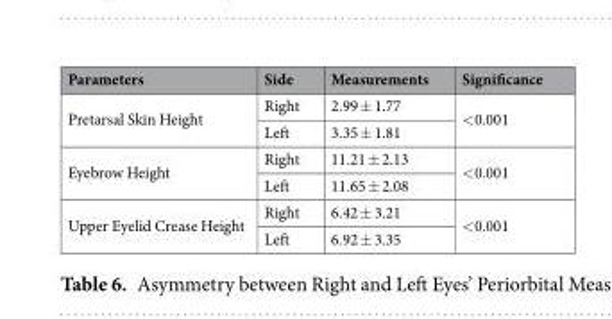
<table><thead><tr><td>Parameters</td><td>Side</td><td>Measurements</td><td>Significance</td></tr></thead><tbody><tr><td rowspan="2">Pretarsal Skin Height</td><td>Right</td><td>2.99 ± 1.77</td><td rowspan="2">&lt;0.001</td></tr><tr><td>Left</td><td>3.35 ± 1.81</td></tr><tr><td rowspan="2">Eyebrow Height</td><td>Right</td><td>11.21 ± 2.13</td><td rowspan="2">&lt;0.001</td></tr><tr><td>Left</td><td>11.65 ± 2.08</td></tr><tr><td rowspan="2">Upper Eyelid Crease Height</td><td>Right</td><td>6.42 ± 3.21</td><td rowspan="2">&lt;0.001</td></tr><tr><td>Left</td><td>6.92 ± 3.35</td></tr></tbody></table>